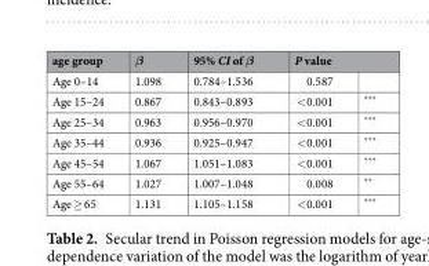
<table><thead><tr><td rowspan="2">age group Age 0–14</td><td rowspan="2">β 1.098</td><td rowspan="2">95% CI of β 0.784–1.536</td><td colspan="2">P value</td></tr><tr><td>0.587</td><td></td></tr></thead><tbody><tr><td>Age 15–24</td><td>0.867</td><td>0.843–0.893</td><td>&lt;0.001</td><td>***</td></tr><tr><td>Age 25–34</td><td>0.963</td><td>0.956–0.970</td><td>&lt;0.001</td><td>***</td></tr><tr><td>Age 35–44</td><td>0.936</td><td>0.925–0.947</td><td>&lt;0.001</td><td>***</td></tr><tr><td>Age 45–54</td><td>1.067</td><td>1.051–1.083</td><td>&lt;0.001</td><td>***</td></tr><tr><td>Age 55–64</td><td>1.027</td><td>1.007–1.048</td><td>0.008</td><td>**</td></tr><tr><td>Age ≥ 65</td><td>1.131</td><td>1.105–1.158</td><td>&lt;0.001</td><td>***</td></tr></tbody></table>